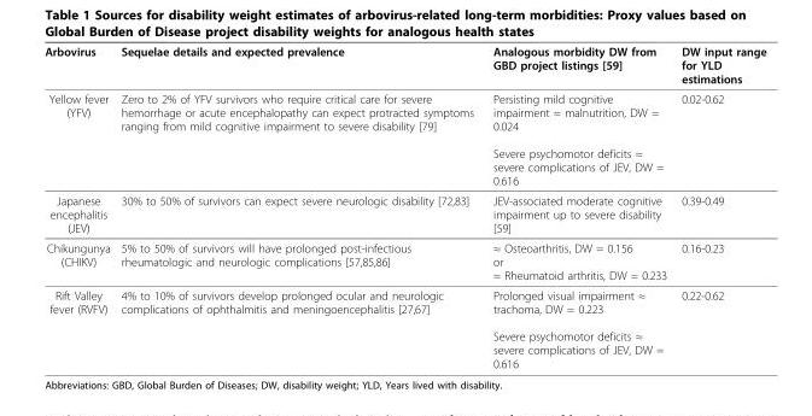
<table><thead><tr><td>Arbovirus</td><td>Sequelae details and expected prevalence</td><td>Analogous morbidity DW from GBD project listings [59]</td><td>DW input range for YLD estimations</td></tr></thead><tbody><tr><td>Yellow fever (YFV)</td><td>Zero to 2% of YFV survivors who require critical care for severe hemorrhage or acute encephalopathy can expect protracted symptoms ranging from mild cognitive impairment to severe disability [79]</td><td>Persisting mild cognitive impairment ≈ malnutrition, DW = 0.024 Severe psychomotor deficits ≈ severe complications of JEV, DW = 0.616</td><td>0.02-0.62</td></tr><tr><td>Japanese encephalitis (JEV)</td><td>30% to 50% of survivors can expect severe neurologic disability [72,83]</td><td>JEV-associated moderate cognitive impairment up to severe disability [59]</td><td>0.39-0.49</td></tr><tr><td>Chikungunya (CHIKV)</td><td>5% to 50% of survivors will have prolonged post-infectious rheumatologic and neurologic complications [57,85,86]</td><td>≈ Osteoarthritis, DW = 0.156 or ≈ Rheumatoid arthritis, DW = 0.233</td><td>0.16-0.23</td></tr><tr><td>Rift Valley fever (RVFV)</td><td>4% to 10% of survivors develop prolonged ocular and neurologic complications of ophthalmitis and meningoencephalitis [27,67]</td><td>Prolonged visual impairment ≈ trachoma, DW = 0.223 Severe psychomotor deficits ≈ severe complications of JEV, DW = 0.616</td><td>0.22-0.62</td></tr></tbody></table>